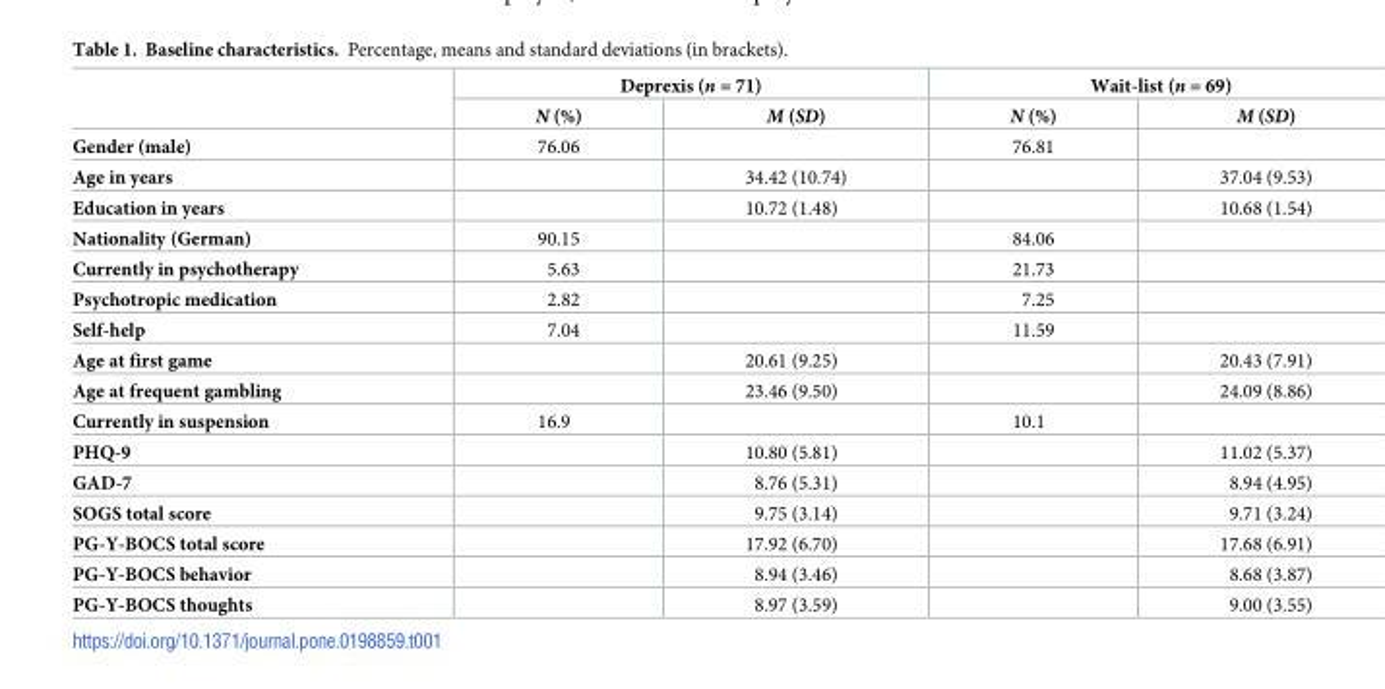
<table><thead><tr><td rowspan="2"></td><td colspan="2">Deprexis (n = 71)</td><td colspan="2">Wait-list (n = 69)</td></tr><tr><td>N (%)</td><td>M (SD)</td><td>N (%)</td><td>M (SD)</td></tr></thead><tbody><tr><td>Gender (male)</td><td>76.06</td><td></td><td>76.81</td><td></td></tr><tr><td>Age in years</td><td></td><td>34.42 (10.74)</td><td></td><td>37.04 (9.53)</td></tr><tr><td>Education in years</td><td></td><td>10.72 (1.48)</td><td></td><td>10.68 (1.54)</td></tr><tr><td>Nationality (German)</td><td>90.15</td><td></td><td>84.06</td><td></td></tr><tr><td>Currently in psychotherapy</td><td>5.63</td><td></td><td>21.73</td><td></td></tr><tr><td>Psychotropic medication</td><td>2.82</td><td></td><td>7.25</td><td></td></tr><tr><td>Self-help</td><td>7.04</td><td></td><td>11.59</td><td></td></tr><tr><td>Age at first game</td><td></td><td>20.61 (9.25)</td><td></td><td>20.43 (7.91)</td></tr><tr><td>Age at frequent gambling</td><td></td><td>23.46 (9.50)</td><td></td><td>24.09 (8.86)</td></tr><tr><td>Currently in suspension</td><td>16.9</td><td></td><td>10.1</td><td></td></tr><tr><td>PHQ-9</td><td></td><td>10.80 (5.81)</td><td></td><td>11.02 (5.37)</td></tr><tr><td>GAD-7</td><td></td><td>8.76 (5.31)</td><td></td><td>8.94 (4.95)</td></tr><tr><td>SOGS total score</td><td></td><td>9.75 (3.14)</td><td></td><td>9.71 (3.24)</td></tr><tr><td>PG-Y-BOCS total score</td><td></td><td>17.92 (6.70)</td><td></td><td>17.68 (6.91)</td></tr><tr><td>PG-Y-BOCS behavior</td><td></td><td>8.94 (3.46)</td><td></td><td>8.68 (3.87)</td></tr><tr><td>PG-Y-BOCS thoughts</td><td></td><td>8.97 (3.59)</td><td></td><td>9.00 (3.55)</td></tr></tbody></table>